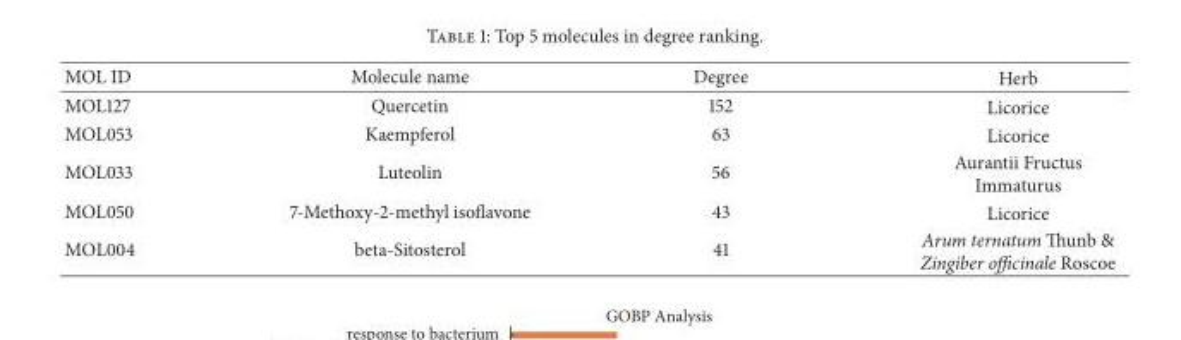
<table><thead><tr><td>MOL ID</td><td>Molecule name</td><td>Degree</td><td>Herb</td></tr></thead><tbody><tr><td>MOL127</td><td>Quercetin</td><td>152</td><td>Licorice</td></tr><tr><td>MOL053</td><td>Kaempferol</td><td>63</td><td>Licorice</td></tr><tr><td>MOL033</td><td>Luteolin</td><td>56</td><td>Aurantii Fructus Immaturus</td></tr><tr><td>MOL050</td><td>7-Methoxy-2-methyl isoflavone</td><td>43</td><td>Licorice</td></tr><tr><td>MOL004</td><td>beta-Sitosterol</td><td>41</td><td>Arum ternatum Thunb &amp; Zingiber officinale Roscoe</td></tr></tbody></table>